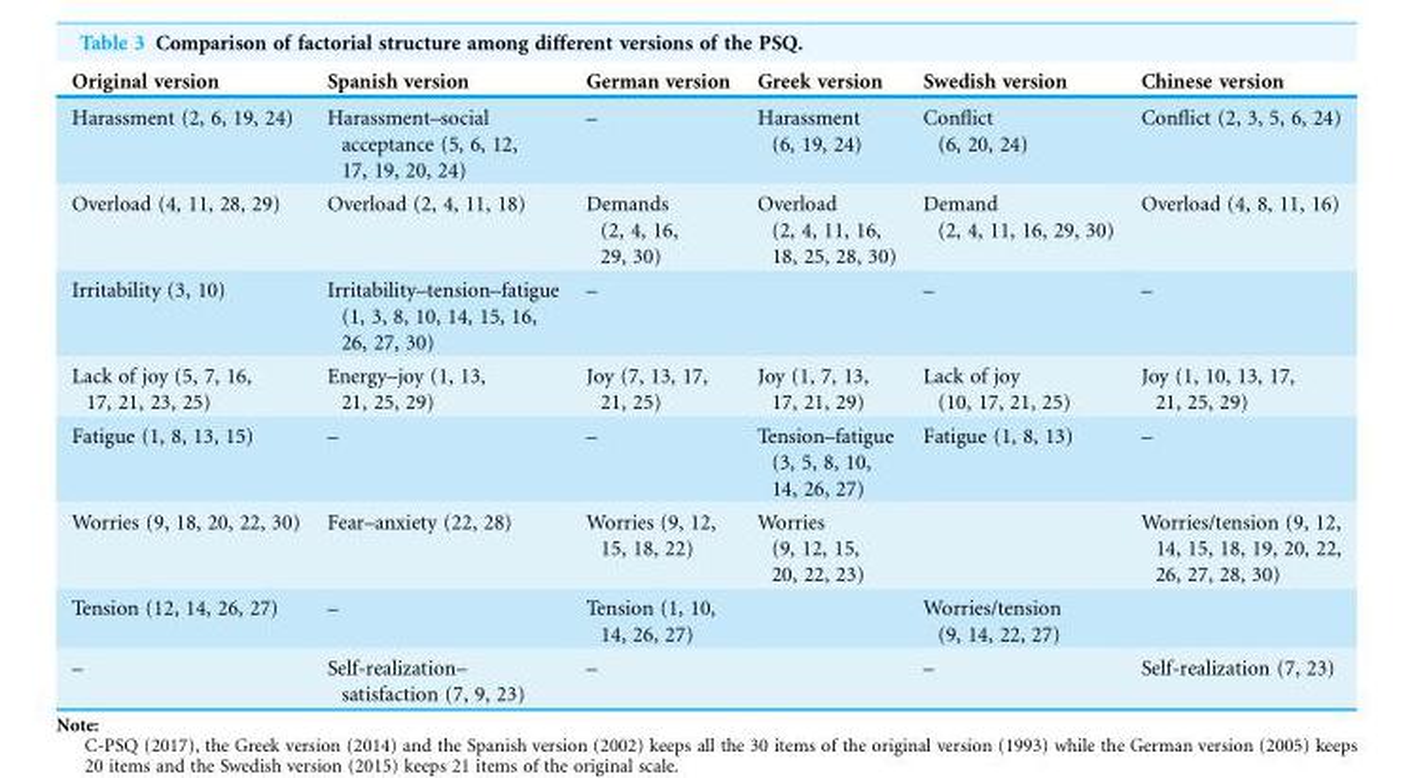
<table><thead><tr><td>Original version</td><td>Spanish version</td><td>German version</td><td>Greek version</td><td>Swedish version</td><td>Chinese version</td></tr></thead><tbody><tr><td>Harassment (2, 6, 19, 24)</td><td>Harassment–social acceptance (5, 6, 12, 17, 19, 20, 24)</td><td>–</td><td>Harassment (6, 19, 24)</td><td>Conflict (6, 20, 24)</td><td>Conflict (2, 3, 5, 6, 24)</td></tr><tr><td>Overload (4, 11, 28, 29)</td><td>Overload (2, 4, 11, 18)</td><td>Demands (2, 4, 16, 29, 30)</td><td>Overload (2, 4, 11, 16, 18, 25, 28, 30)</td><td>Demand (2, 4, 11, 16, 29, 30)</td><td>Overload (4, 8, 11, 16)</td></tr><tr><td>Irritability (3, 10)</td><td>Irritability–tension–fatigue (1, 3, 8, 10, 14, 15, 16, 26, 27, 30)</td><td>–</td><td></td><td>–</td><td>–</td></tr><tr><td>Lack of joy (5, 7, 16, 17, 21, 23, 25)</td><td>Energy–joy (1, 13, 21, 25, 29)</td><td>Joy (7, 13, 17, 21, 25)</td><td>Joy (1, 7, 13, 17, 21, 29)</td><td>Lack of joy (10, 17, 21, 25)</td><td>Joy (1, 10, 13, 17, 21, 25, 29)</td></tr><tr><td>Fatigue (1, 8, 13, 15)</td><td>–</td><td>–</td><td>Tension–fatigue (3, 5, 8, 10, 14, 26, 27)</td><td>Fatigue (1, 8, 13)</td><td>–</td></tr><tr><td>Worries (9, 18, 20, 22, 30)</td><td>Fear–anxiety (22, 28)</td><td>Worries (9, 12, 15, 18, 22)</td><td>Worries (9, 12, 15, 20, 22, 23)</td><td></td><td>Worries/tension (9, 12, 14, 15, 18, 19, 20, 22, 26, 27, 28, 30)</td></tr><tr><td>Tension (12, 14, 26, 27)</td><td>–</td><td>Tension (1, 10, 14, 26, 27)</td><td></td><td>Worries/tension (9, 14, 22, 27)</td><td></td></tr><tr><td>–</td><td>Self-realization– satisfaction (7, 9, 23)</td><td>–</td><td></td><td>–</td><td>Self-realization (7, 23)</td></tr></tbody></table>